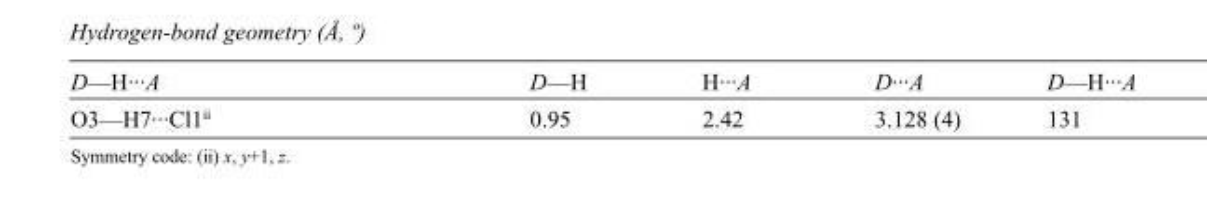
<table><tbody><tr><td>D—H···A</td><td>D—H</td><td>H···A</td><td>D···A</td><td>D—H···A</td></tr><tr><td>O3—H7···Cl1<sup>ii</sup></td><td>0.95</td><td>2.42</td><td>3.128 (4)</td><td>131</td></tr></tbody></table>